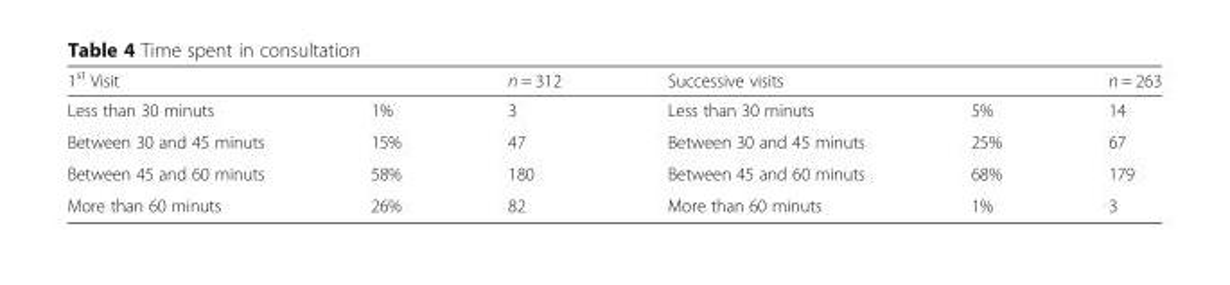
<table><thead><tr><td colspan="2">1<sup>st</sup> Visit</td><td rowspan="2">n = 312 3</td><td colspan="2">Successive visits</td><td rowspan="2">n = 263 14</td></tr><tr><td>Less than 30 minuts</td><td>1%</td><td>Less than 30 minuts</td><td>5%</td></tr></thead><tbody><tr><td>Between 30 and 45 minuts</td><td>15%</td><td>47</td><td>Between 30 and 45 minuts</td><td>25%</td><td>67</td></tr><tr><td>Between 45 and 60 minuts</td><td>58%</td><td>180</td><td>Between 45 and 60 minuts</td><td>68%</td><td>179</td></tr><tr><td>More than 60 minuts</td><td>26%</td><td>82</td><td>More than 60 minuts</td><td>1%</td><td>3</td></tr></tbody></table>